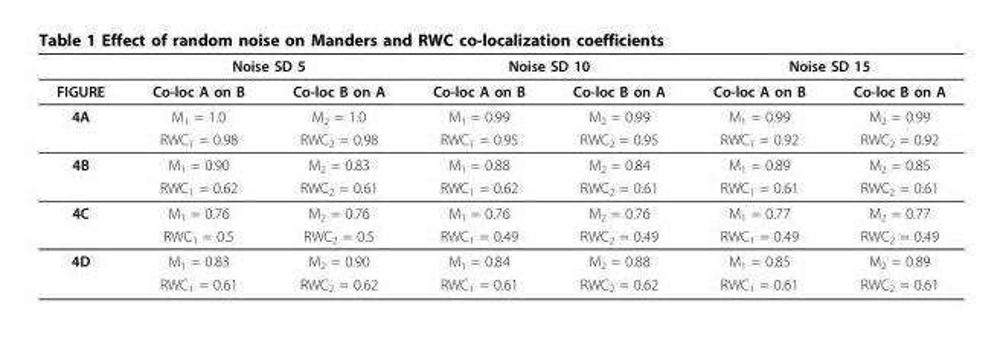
<table><thead><tr><td rowspan="2">FIGURE</td><td colspan="2">Noise SD 5</td><td colspan="2">Noise SD 10</td><td colspan="2">Noise SD 15</td></tr><tr><td>Co-loc A on B</td><td>Co-loc B on A</td><td>Co-loc A on B</td><td>Co-loc B on A</td><td>Co-loc A on B</td><td>Co-loc B on A</td></tr></thead><tbody><tr><td rowspan="2">4A</td><td>M<sub>1</sub> = 1.0</td><td>M<sub>2</sub> = 1.0</td><td>M<sub>1</sub> = 0.99</td><td>M<sub>2</sub> = 0.99</td><td>M<sub>1</sub> = 0.99</td><td>M<sub>2</sub> = 0.99</td></tr><tr><td>RWC<sub>1</sub> = 0.98</td><td>RWC<sub>2</sub> = 0.98</td><td>RWC<sub>1</sub> = 0.95</td><td>RWC<sub>2</sub> = 0.95</td><td>RWC<sub>1</sub> = 0.92</td><td>RWC<sub>2</sub> = 0.92</td></tr><tr><td rowspan="2">4B</td><td>M<sub>1</sub> = 0.90</td><td>M<sub>2</sub> = 0.83</td><td>M<sub>1</sub> = 0.88</td><td>M<sub>2</sub> = 0.84</td><td>M<sub>1</sub> = 0.89</td><td>M<sub>2</sub> = 0.85</td></tr><tr><td>RWC<sub>1</sub> = 0.62</td><td>RWC<sub>2</sub> = 0.61</td><td>RWC<sub>1</sub> = 0.62</td><td>RWC<sub>2</sub> = 0.61</td><td>RWC<sub>1</sub> = 0.61</td><td>RWC<sub>2</sub> = 0.61</td></tr><tr><td rowspan="2">4C</td><td>M<sub>1</sub> = 0.76</td><td>M<sub>2</sub> = 0.76</td><td>M<sub>1</sub> = 0.76</td><td>M<sub>2</sub> = 0.76</td><td>M<sub>1</sub> = 0.77</td><td>M<sub>2</sub> = 0.77</td></tr><tr><td>RWC<sub>1</sub> = 0.5</td><td>RWC<sub>2</sub> = 0.5</td><td>RWC<sub>1</sub> = 0.49</td><td>RWC<sub>2</sub> = 0.49</td><td>RWC<sub>1</sub> = 0.49</td><td>RWC<sub>2</sub> = 0.49</td></tr><tr><td rowspan="2">4D</td><td>M<sub>1</sub> = 0.83</td><td>M<sub>2</sub> = 0.90</td><td>M<sub>1</sub> = 0.84</td><td>M<sub>2</sub> = 0.88</td><td>M<sub>1</sub> = 0.85</td><td>M<sub>2</sub> = 0.89</td></tr><tr><td>RWC<sub>1</sub> = 0.61</td><td>RWC<sub>2</sub> = 0.62</td><td>RWC<sub>1</sub> = 0.61</td><td>RWC<sub>2</sub> = 0.62</td><td>RWC<sub>1</sub> = 0.61</td><td>RWC<sub>2</sub> = 0.61</td></tr></tbody></table>